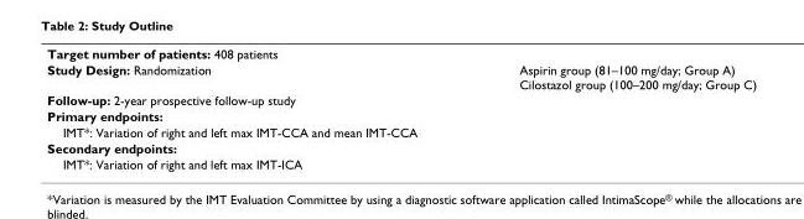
<table><tbody><tr><td colspan="2">Target number of patients: 408 patients</td></tr><tr><td>Study Design: Randomization</td><td>Aspirin group (81–100 mg/day; Group A) Cilostazol group (100–200 mg/day; Group C)</td></tr><tr><td colspan="2">Follow-up: 2-year prospective follow-up study</td></tr><tr><td colspan="2">Primary endpoints:</td></tr><tr><td colspan="2">IMT*: Variation of right and left max IMT-CCA and mean IMT-CCA</td></tr><tr><td colspan="2">Secondary endpoints:</td></tr><tr><td>IMT*: Variation of right and left max IMT-ICA</td><td></td></tr></tbody></table>